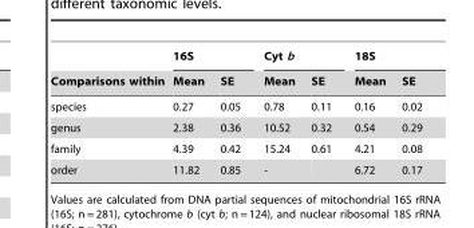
<table><thead><tr><td rowspan="2">Comparisons within</td><td colspan="2">16S</td><td colspan="2">Cyt b</td><td colspan="2">18S</td></tr><tr><td>Mean</td><td>SE</td><td>Mean</td><td>SE</td><td>Mean</td><td>SE</td></tr></thead><tbody><tr><td>species</td><td>0.27</td><td>0.05</td><td>0.78</td><td>0.11</td><td>0.16</td><td>0.02</td></tr><tr><td>genus</td><td>2.38</td><td>0.36</td><td>10.52</td><td>0.32</td><td>0.54</td><td>0.29</td></tr><tr><td>family</td><td>4.39</td><td>0.42</td><td>15.24</td><td>0.61</td><td>4.21</td><td>0.08</td></tr><tr><td>order</td><td>11.82</td><td>0.85</td><td>-</td><td></td><td>6.72</td><td>0.17</td></tr></tbody></table>